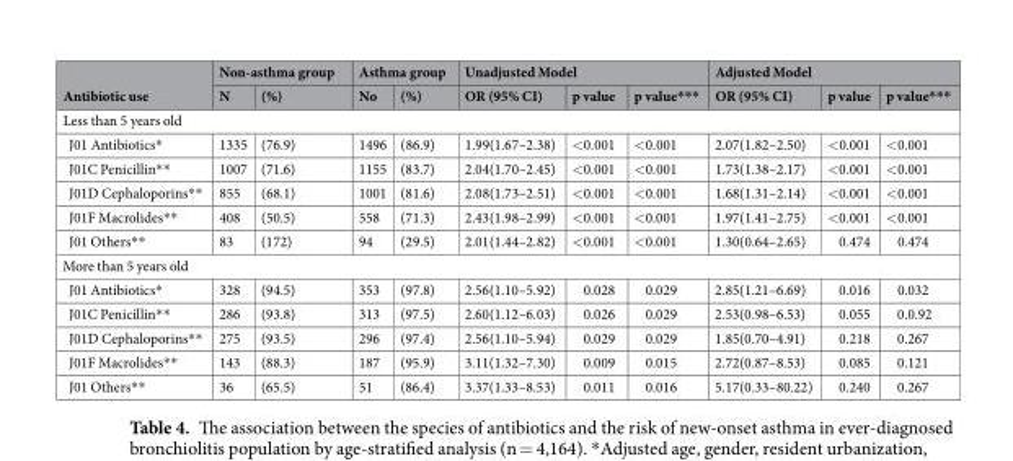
<table><thead><tr><td rowspan="2">Antibiotic use</td><td colspan="2">Non-asthma group</td><td colspan="2">Asthma group</td><td colspan="3">Unadjusted Model</td><td colspan="3">Adjusted Model</td></tr><tr><td>N</td><td>(%)</td><td>No</td><td>(%)</td><td>OR (95% CI)</td><td>p value</td><td>p value***</td><td>OR (95% CI)</td><td>p value</td><td>p value***</td></tr></thead><tbody><tr><td colspan="11">Less than 5 years old</td></tr><tr><td>J01 Antibiotics*</td><td>1335</td><td>(76.9)</td><td>1496</td><td>(86.9)</td><td>1.99(1.67–2.38)</td><td>&lt;0.001</td><td>&lt;0.001</td><td>2.07(1.82–2.50)</td><td>&lt;0.001</td><td>&lt;0.001</td></tr><tr><td>J01C Penicillin**</td><td>1007</td><td>(71.6)</td><td>1155</td><td>(83.7)</td><td>2.04(1.70–2.45)</td><td>&lt;0.001</td><td>&lt;0.001</td><td>1.73(1.38–2.17)</td><td>&lt;0.001</td><td>&lt;0.001</td></tr><tr><td>J01D Cephaloporins**</td><td>855</td><td>(68.1)</td><td>1001</td><td>(81.6)</td><td>2.08(1.73–2.51)</td><td>&lt;0.001</td><td>&lt;0.001</td><td>1.68(1.31–2.14)</td><td>&lt;0.001</td><td>&lt;0.001</td></tr><tr><td>J01F Macrolides**</td><td>408</td><td>(50.5)</td><td>558</td><td>(71.3)</td><td>2.43(1.98–2.99)</td><td>&lt;0.001</td><td>&lt;0.001</td><td>1.97(1.41–2.75)</td><td>&lt;0.001</td><td>&lt;0.001</td></tr><tr><td>J01 Others**</td><td>83</td><td>(172)</td><td>94</td><td>(29.5)</td><td>2.01(1.44–2.82)</td><td>&lt;0.001</td><td>&lt;0.001</td><td>1.30(0.64–2.65)</td><td>0.474</td><td>0.474</td></tr><tr><td colspan="11">More than 5 years old</td></tr><tr><td>J01 Antibiotics*</td><td>328</td><td>(94.5)</td><td>353</td><td>(97.8)</td><td>2.56(1.10–5.92)</td><td>0.028</td><td>0.029</td><td>2.85(1.21–6.69)</td><td>0.016</td><td>0.032</td></tr><tr><td>J01C Penicillin**</td><td>286</td><td>(93.8)</td><td>313</td><td>(97.5)</td><td>2.60(1.12–6.03)</td><td>0.026</td><td>0.029</td><td>2.53(0.98–6.53)</td><td>0.055</td><td>0.0.92</td></tr><tr><td>J01D Cephaloporins**</td><td>275</td><td>(93.5)</td><td>296</td><td>(97.4)</td><td>2.56(1.10–5.94)</td><td>0.029</td><td>0.029</td><td>1.85(0.70–4.91)</td><td>0.218</td><td>0.267</td></tr><tr><td>J01F Macrolides**</td><td>143</td><td>(88.3)</td><td>187</td><td>(95.9)</td><td>3.11(1.32–7.30)</td><td>0.009</td><td>0.015</td><td>2.72(0.87–8.53)</td><td>0.085</td><td>0.121</td></tr><tr><td>J01 Others**</td><td>36</td><td>(65.5)</td><td>51</td><td>(86.4)</td><td>3.37(1.33–8.53)</td><td>0.011</td><td>0.016</td><td>5.17(0.33–80.22)</td><td>0.240</td><td>0.267</td></tr></tbody></table>